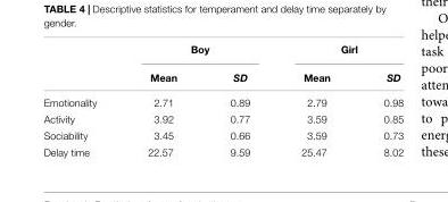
<table><thead><tr><td rowspan="2"></td><td colspan="2">Boy</td><td colspan="2">Girl</td></tr><tr><td>Mean</td><td>SD</td><td>Mean</td><td>SD</td></tr></thead><tbody><tr><td>Emotionality</td><td>2.71</td><td>0.89</td><td>2.79</td><td>0.98</td></tr><tr><td>Activity</td><td>3.92</td><td>0.77</td><td>3.59</td><td>0.85</td></tr><tr><td>Sociability</td><td>3.45</td><td>0.66</td><td>3.59</td><td>0.73</td></tr><tr><td>Delay time</td><td>22.57</td><td>9.59</td><td>25.47</td><td>8.02</td></tr></tbody></table>